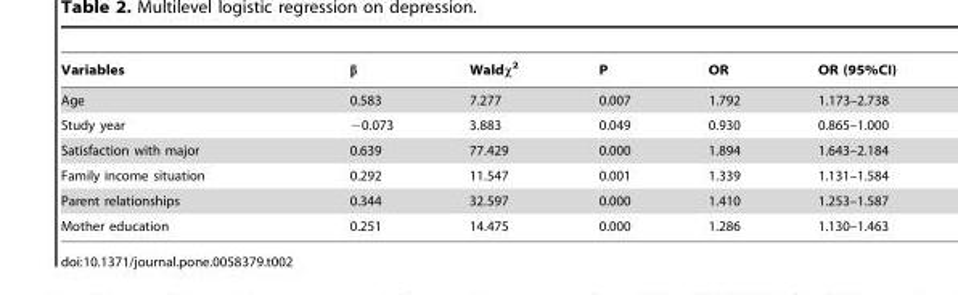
<table><thead><tr><td>Variables</td><td>β</td><td>Waldχ<sup>2</sup></td><td>P</td><td>OR</td><td>OR (95%CI)</td></tr></thead><tbody><tr><td>Age</td><td>0.583</td><td>7.277</td><td>0.007</td><td>1.792</td><td>1.173–2.738</td></tr><tr><td>Study year</td><td>−0.073</td><td>3.883</td><td>0.049</td><td>0.930</td><td>0.865–1.000</td></tr><tr><td>Satisfaction with major</td><td>0.639</td><td>77.429</td><td>0.000</td><td>1.894</td><td>1.643–2.184</td></tr><tr><td>Family income situation</td><td>0.292</td><td>11.547</td><td>0.001</td><td>1.339</td><td>1.131–1.584</td></tr><tr><td>Parent relationships</td><td>0.344</td><td>32.597</td><td>0.000</td><td>1.410</td><td>1.253–1.587</td></tr><tr><td>Mother education</td><td>0.251</td><td>14.475</td><td>0.000</td><td>1.286</td><td>1.130–1.463</td></tr></tbody></table>